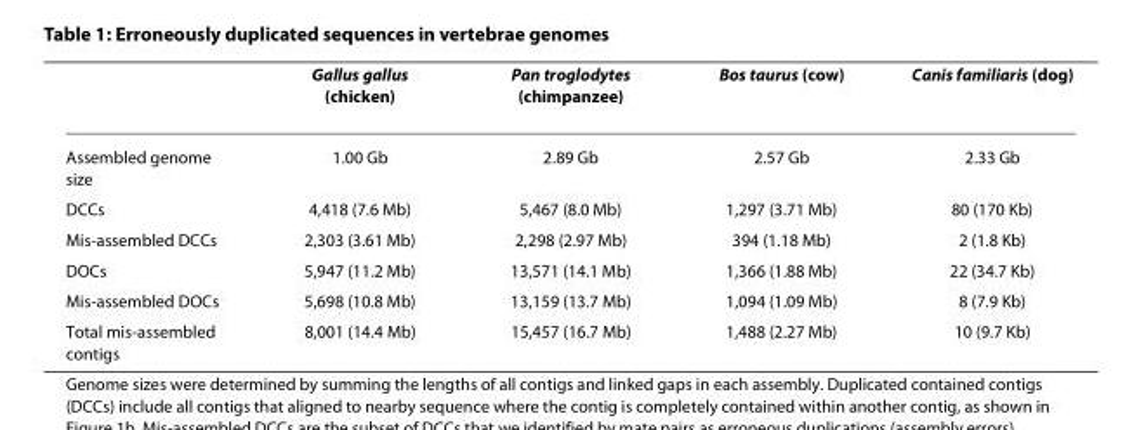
<table><thead><tr><td></td><td>Gallus gallus (chicken)</td><td>Pan troglodytes (chimpanzee)</td><td>Bos taurus (cow)</td><td>Canis familiaris (dog)</td></tr></thead><tbody><tr><td>Assembled genome size</td><td>1.00 Gb</td><td>2.89 Gb</td><td>2.57 Gb</td><td>2.33 Gb</td></tr><tr><td>DCCs</td><td>4,418 (7.6 Mb)</td><td>5,467 (8.0 Mb)</td><td>1,297 (3.71 Mb)</td><td>80 (170 Kb)</td></tr><tr><td>Mis-assembled DCCs</td><td>2,303 (3.61 Mb)</td><td>2,298 (2.97 Mb)</td><td>394 (1.18 Mb)</td><td>2 (1.8 Kb)</td></tr><tr><td>DOCs</td><td>5,947 (11.2 Mb)</td><td>13,571 (14.1 Mb)</td><td>1,366 (1.88 Mb)</td><td>22 (34.7 Kb)</td></tr><tr><td>Mis-assembled DOCs</td><td>5,698 (10.8 Mb)</td><td>13,159 (13.7 Mb)</td><td>1,094 (1.09 Mb)</td><td>8 (7.9 Kb)</td></tr><tr><td>Total mis-assembled contigs</td><td>8,001 (14.4 Mb)</td><td>15,457 (16.7 Mb)</td><td>1,488 (2.27 Mb)</td><td>10 (9.7 Kb)</td></tr></tbody></table>